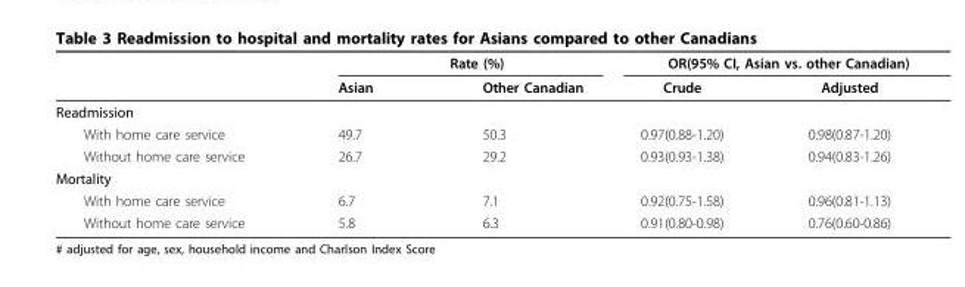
<table><thead><tr><td rowspan="2"></td><td colspan="2">Rate (%)</td><td colspan="2">OR(95% CI, Asian vs. other Canadian)</td></tr><tr><td>Asian</td><td>Other Canadian</td><td>Crude</td><td>Adjusted</td></tr></thead><tbody><tr><td colspan="5">Readmission</td></tr><tr><td>With home care service</td><td>49.7</td><td>50.3</td><td>0.97(0.88-1.20)</td><td>0.98(0.87-1.20)</td></tr><tr><td>Without home care service</td><td>26.7</td><td>29.2</td><td>0.93(0.93-1.38)</td><td>0.94(0.83-1.26)</td></tr><tr><td colspan="5">Mortality</td></tr><tr><td>With home care service</td><td>6.7</td><td>7.1</td><td>0.92(0.75-1.58)</td><td>0.96(0.81-1.13)</td></tr><tr><td>Without home care service</td><td>5.8</td><td>6.3</td><td>0.91(0.80-0.98)</td><td>0.76(0.60-0.86)</td></tr></tbody></table>